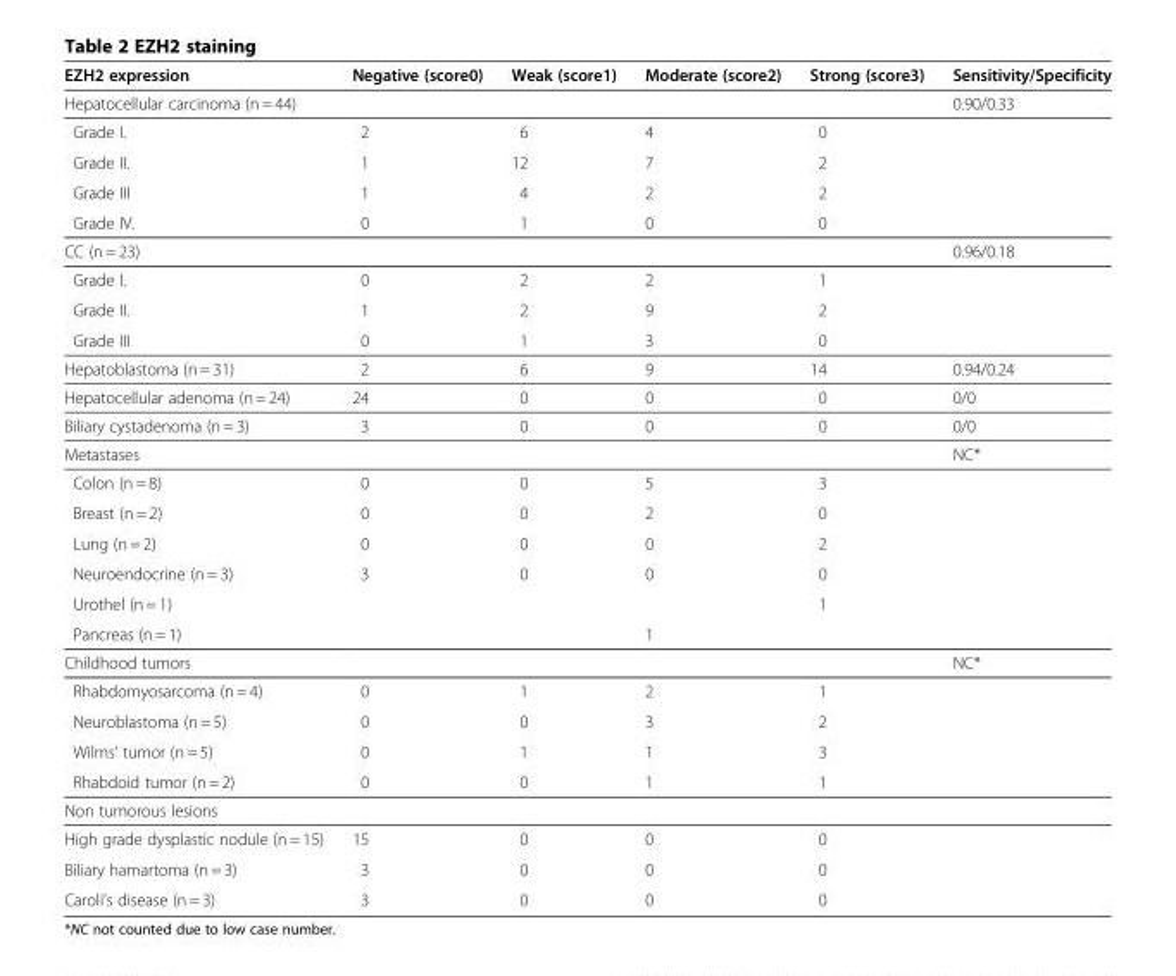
<table><thead><tr><td>EZH2 expression</td><td>Negative (score0)</td><td>Weak (score1)</td><td>Moderate (score2)</td><td>Strong (score3)</td><td>Sensitivity/Specificity</td></tr></thead><tbody><tr><td>Hepatocellular carcinoma (n = 44)</td><td></td><td></td><td></td><td></td><td>0.90/0.33</td></tr><tr><td>Grade I.</td><td>2</td><td>6</td><td>4</td><td>0</td><td></td></tr><tr><td>Grade II.</td><td>1</td><td>12</td><td>7</td><td>2</td><td></td></tr><tr><td>Grade III</td><td>1</td><td>4</td><td>2</td><td>2</td><td></td></tr><tr><td>Grade IV.</td><td>0</td><td>1</td><td>0</td><td>0</td><td></td></tr><tr><td>CC (n = 23)</td><td></td><td></td><td></td><td></td><td>0.96/0.18</td></tr><tr><td>Grade I.</td><td>0</td><td>2</td><td>2</td><td>1</td><td></td></tr><tr><td>Grade II.</td><td>1</td><td>2</td><td>9</td><td>2</td><td></td></tr><tr><td>Grade III</td><td>0</td><td>1</td><td>3</td><td>0</td><td></td></tr><tr><td>Hepatoblastoma (n = 31)</td><td>2</td><td>6</td><td>9</td><td>14</td><td>0.94/0.24</td></tr><tr><td>Hepatocellular adenoma (n = 24)</td><td>24</td><td>0</td><td>0</td><td>0</td><td>0/0</td></tr><tr><td>Biliary cystadenoma (n = 3)</td><td>3</td><td>0</td><td>0</td><td>0</td><td>0/0</td></tr><tr><td>Metastases</td><td></td><td></td><td></td><td></td><td>NC*</td></tr><tr><td>Colon (n = 8)</td><td>0</td><td>0</td><td>5</td><td>3</td><td></td></tr><tr><td>Breast (n = 2)</td><td>0</td><td>0</td><td>2</td><td>0</td><td></td></tr><tr><td>Lung (n = 2)</td><td>0</td><td>0</td><td>0</td><td>2</td><td></td></tr><tr><td>Neuroendocrine (n = 3)</td><td>3</td><td>0</td><td>0</td><td>0</td><td></td></tr><tr><td>Urothel (n = 1)</td><td></td><td></td><td></td><td>1</td><td></td></tr><tr><td>Pancreas (n = 1)</td><td></td><td></td><td>1</td><td></td><td></td></tr><tr><td>Childhood tumors</td><td></td><td></td><td></td><td></td><td>NC*</td></tr><tr><td>Rhabdomyosarcoma (n = 4)</td><td>0</td><td>1</td><td>2</td><td>1</td><td></td></tr><tr><td>Neuroblastoma (n = 5)</td><td>0</td><td>0</td><td>3</td><td>2</td><td></td></tr><tr><td>Wilms’ tumor (n = 5)</td><td>0</td><td>1</td><td>1</td><td>3</td><td></td></tr><tr><td>Rhabdoid tumor (n = 2)</td><td>0</td><td>0</td><td>1</td><td>1</td><td></td></tr><tr><td colspan="6">Non tumorous lesions</td></tr><tr><td>High grade dysplastic nodule (n = 15)</td><td>15</td><td>0</td><td>0</td><td>0</td><td></td></tr><tr><td>Biliary hamartoma (n = 3)</td><td>3</td><td>0</td><td>0</td><td>0</td><td></td></tr><tr><td>Caroli’s disease (n = 3)</td><td>3</td><td>0</td><td>0</td><td>0</td><td></td></tr></tbody></table>